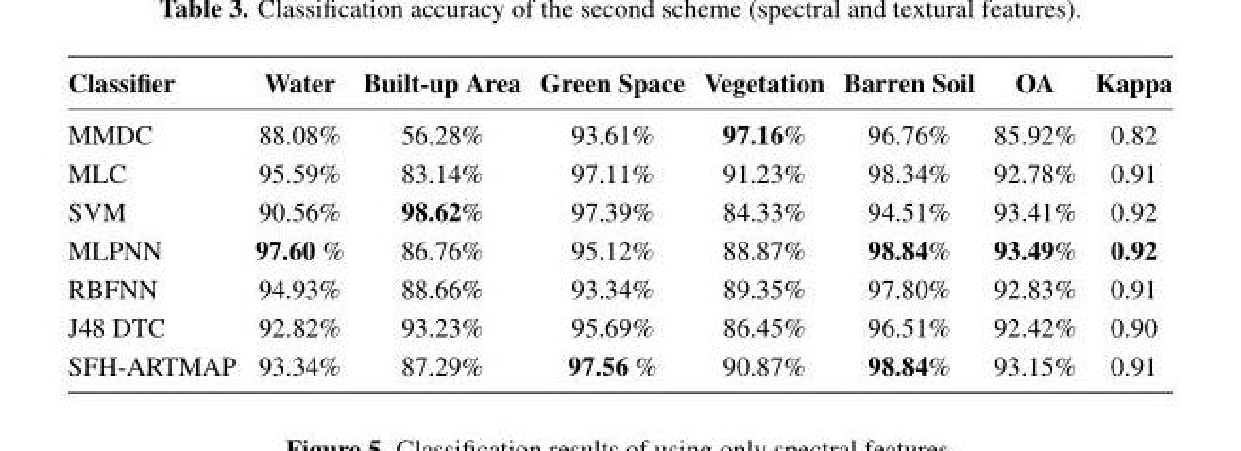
<table><thead><tr><td>Classifier</td><td>Water</td><td>Built-up Area</td><td>Green Space</td><td>Vegetation</td><td>Barren Soil</td><td>OA</td><td>Kappa</td></tr></thead><tbody><tr><td>MMDC</td><td>88.08%</td><td>56.28%</td><td>93.61%</td><td>97.16%</td><td>96.76%</td><td>85.92%</td><td>0.82</td></tr><tr><td>MLC</td><td>95.59%</td><td>83.14%</td><td>97.11%</td><td>91.23%</td><td>98.34%</td><td>92.78%</td><td>0.91</td></tr><tr><td>SVM</td><td>90.56%</td><td>98.62%</td><td>97.39%</td><td>84.33%</td><td>94.51%</td><td>93.41%</td><td>0.92</td></tr><tr><td>MLPNN</td><td>97.60 %</td><td>86.76%</td><td>95.12%</td><td>88.87%</td><td>98.84%</td><td>93.49%</td><td>0.92</td></tr><tr><td>RBFNN</td><td>94.93%</td><td>88.66%</td><td>93.34%</td><td>89.35%</td><td>97.80%</td><td>92.83%</td><td>0.91</td></tr><tr><td>J48 DTC</td><td>92.82%</td><td>93.23%</td><td>95.69%</td><td>86.45%</td><td>96.51%</td><td>92.42%</td><td>0.90</td></tr><tr><td>SFH-ARTMAP</td><td>93.34%</td><td>87.29%</td><td>97.56 %</td><td>90.87%</td><td>98.84%</td><td>93.15%</td><td>0.91</td></tr></tbody></table>